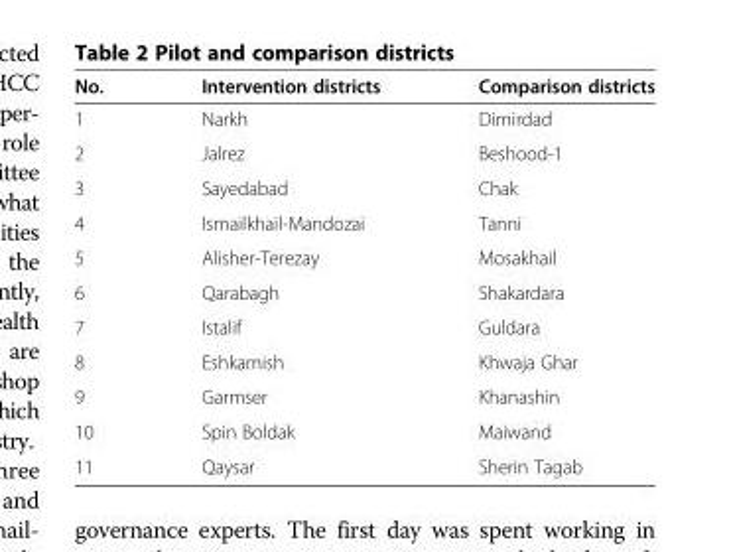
<table><thead><tr><td>No.</td><td>Intervention districts</td><td>Comparison districts</td></tr></thead><tbody><tr><td>1</td><td>Narkh</td><td>Dimirdad</td></tr><tr><td>2</td><td>Jalrez</td><td>Beshood-1</td></tr><tr><td>3</td><td>Sayedabad</td><td>Chak</td></tr><tr><td>4</td><td>Ismailkhail-Mandozai</td><td>Tanni</td></tr><tr><td>5</td><td>Alisher-Terezay</td><td>Mosakhail</td></tr><tr><td>6</td><td>Qarabagh</td><td>Shakardara</td></tr><tr><td>7</td><td>Istalif</td><td>Guldara</td></tr><tr><td>8</td><td>Eshkamish</td><td>Khwaja Ghar</td></tr><tr><td>9</td><td>Garmser</td><td>Khanashin</td></tr><tr><td>10</td><td>Spin Boldak</td><td>Maiwand</td></tr><tr><td>11</td><td>Qaysar</td><td>Sherin Tagab</td></tr></tbody></table>